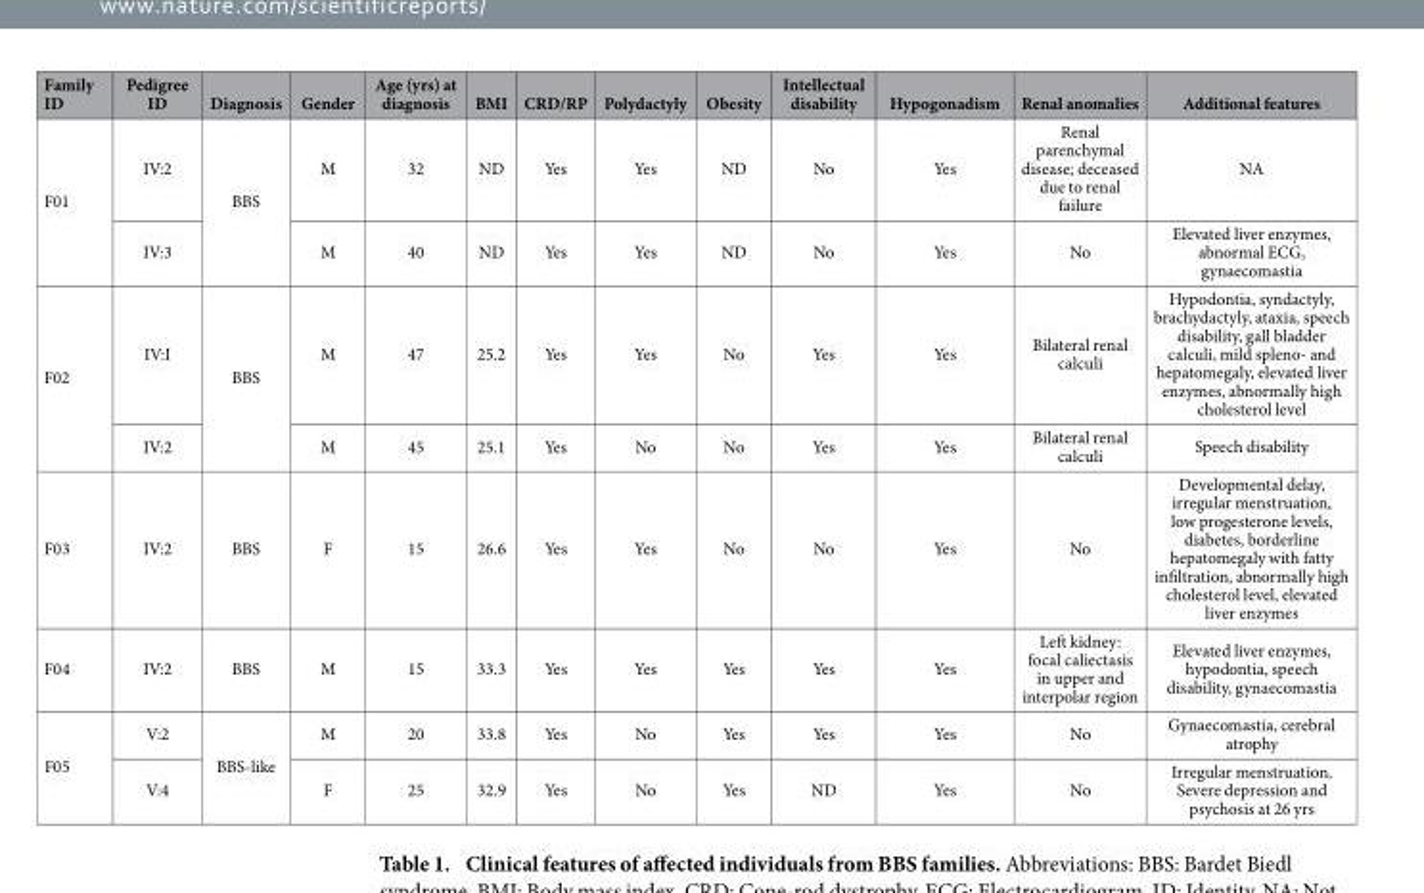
<table><thead><tr><td>Family ID</td><td>Pedigree ID</td><td>Diagnosis</td><td>Gender</td><td>Age (yrs) at diagnosis</td><td>BMI</td><td>CRD/RP</td><td>Polydactyly</td><td>Obesity</td><td>Intellectual disability</td><td>Hypogonadism</td><td>Renal anomalies</td><td>Additional features</td></tr></thead><tbody><tr><td rowspan="2">F01</td><td>IV:2</td><td rowspan="2">BBS</td><td>M</td><td>32</td><td>ND</td><td>Yes</td><td>Yes</td><td>ND</td><td>No</td><td>Yes</td><td>Renal parenchymal disease; deceased due to renal failure</td><td>NA</td></tr><tr><td>IV:3</td><td>M</td><td>40</td><td>ND</td><td>Yes</td><td>Yes</td><td>ND</td><td>No</td><td>Yes</td><td>No</td><td>Elevated liver enzymes, abnormal ECG, gynaecomastia</td></tr><tr><td rowspan="2">F02</td><td>IV:I</td><td rowspan="2">BBS</td><td>M</td><td>47</td><td>25.2</td><td>Yes</td><td>Yes</td><td>No</td><td>Yes</td><td>Yes</td><td>Bilateral renal calculi</td><td>Hypodontia, syndactyly, brachydactyly, ataxia, speech disability, gall bladder calculi, mild spleno- and hepatomegaly, elevated liver enzymes, abnormally high cholesterol level</td></tr><tr><td>IV:2</td><td>M</td><td>45</td><td>25.1</td><td>Yes</td><td>No</td><td>No</td><td>Yes</td><td>Yes</td><td>Bilateral renal calculi</td><td>Speech disability</td></tr><tr><td>F03</td><td>IV:2</td><td>BBS</td><td>F</td><td>15</td><td>26.6</td><td>Yes</td><td>Yes</td><td>No</td><td>No</td><td>Yes</td><td>No</td><td>Developmental delay, irregular menstruation, low progesterone levels, diabetes, borderline hepatomegaly with fatty infiltration, abnormally high cholesterol level, elevated liver enzymes</td></tr><tr><td>F04</td><td>IV:2</td><td>BBS</td><td>M</td><td>15</td><td>33.3</td><td>Yes</td><td>Yes</td><td>Yes</td><td>Yes</td><td>Yes</td><td>Left kidney: focal caliectasis in upper and interpolar region</td><td>Elevated liver enzymes, hypodontia, speech disability, gynaecomastia</td></tr><tr><td rowspan="2">F05</td><td>V:2</td><td rowspan="2">BBS-like</td><td>M</td><td>20</td><td>33.8</td><td>Yes</td><td>No</td><td>Yes</td><td>Yes</td><td>Yes</td><td>No</td><td>Gynaecomastia, cerebral atrophy</td></tr><tr><td>V:4</td><td>F</td><td>25</td><td>32.9</td><td>Yes</td><td>No</td><td>Yes</td><td>ND</td><td>Yes</td><td>No</td><td>Irregular menstruation, Severe depression and psychosis at 26 yrs</td></tr></tbody></table>